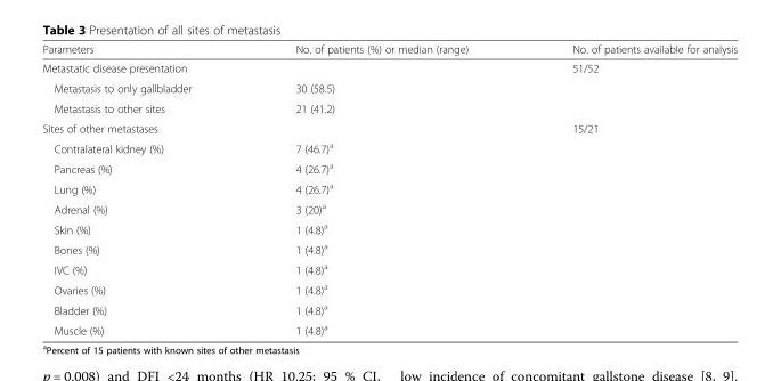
<table><thead><tr><td>Parameters</td><td>No. of patients (%) or median (range)</td><td>No. of patients available for analysis</td></tr></thead><tbody><tr><td>Metastatic disease presentation</td><td></td><td>51/52</td></tr><tr><td>Metastasis to only gallbladder</td><td>30 (58.5)</td><td></td></tr><tr><td>Metastasis to other sites</td><td>21 (41.2)</td><td></td></tr><tr><td>Sites of other metastases</td><td></td><td>15/21</td></tr><tr><td>Contralateral kidney (%)</td><td>7 (46.7)<sup>a</sup></td><td></td></tr><tr><td>Pancreas (%)</td><td>4 (26.7)<sup>a</sup></td><td></td></tr><tr><td>Lung (%)</td><td>4 (26.7)<sup>a</sup></td><td></td></tr><tr><td>Adrenal (%)</td><td>3 (20)<sup>a</sup></td><td></td></tr><tr><td>Skin (%)</td><td>1 (4.8)<sup>a</sup></td><td></td></tr><tr><td>Bones (%)</td><td>1 (4.8)<sup>a</sup></td><td></td></tr><tr><td>IVC (%)</td><td>1 (4.8)<sup>a</sup></td><td></td></tr><tr><td>Ovaries (%)</td><td>1 (4.8)<sup>a</sup></td><td></td></tr><tr><td>Bladder (%)</td><td>1 (4.8)<sup>a</sup></td><td></td></tr><tr><td>Muscle (%)</td><td>1 (4.8)<sup>a</sup></td><td></td></tr></tbody></table>